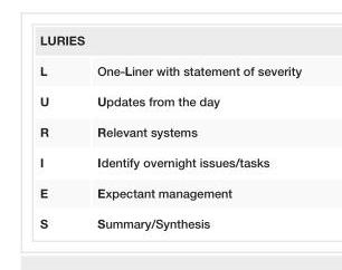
<table><tbody><tr><td colspan="2">LURIES</td></tr><tr><td>L</td><td>One-Liner with statement of severity</td></tr><tr><td>U</td><td>Updates from the day</td></tr><tr><td>R</td><td>Relevant systems</td></tr><tr><td>I</td><td>Identify overnight issues/tasks</td></tr><tr><td>E</td><td>Expectant management</td></tr><tr><td>S</td><td>Summary/Synthesis</td></tr></tbody></table>